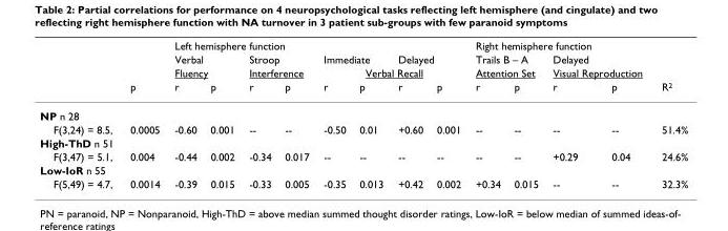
<table><thead><tr><td rowspan="4"></td><td rowspan="4">p</td><td colspan="8">Left hemisphere function</td><td colspan="5">Right hemisphere function</td></tr><tr><td rowspan="2" colspan="2">Verbal Fluency</td><td rowspan="2" colspan="2">Stroop Interference</td><td colspan="2">Immediate</td><td colspan="2">Delayed</td><td rowspan="2" colspan="2">Trails B – A Attention Set</td><td rowspan="2" colspan="2">Delayed Visual Reproduction</td><td rowspan="3">R<sup>2</sup></td></tr><tr><td colspan="4">Verbal Recall</td></tr><tr><td>r</td><td>p</td><td>r</td><td>p</td><td>r</td><td>p</td><td>r</td><td>p</td><td>r</td><td>p</td><td>r</td><td>p</td></tr></thead><tbody><tr><td colspan="15">NP n 28</td></tr><tr><td>F(3,24) = 8.5,</td><td>0.0005</td><td>-0.60</td><td>0.001</td><td>--</td><td>--</td><td>-0.50</td><td>0.01</td><td>+0.60</td><td>0.001</td><td>--</td><td>--</td><td>--</td><td>--</td><td>51.4%</td></tr><tr><td colspan="15">High-ThD n 51</td></tr><tr><td>F(3,47) = 5.1,</td><td>0.004</td><td>-0.44</td><td>0.002</td><td>-0.34</td><td>0.017</td><td>--</td><td>--</td><td>--</td><td>--</td><td>--</td><td>--</td><td>+0.29</td><td>0.04</td><td>24.6%</td></tr><tr><td colspan="15">Low-IoR n 55</td></tr><tr><td>F(5,49) = 4.7,</td><td>0.0014</td><td>-0.39</td><td>0.015</td><td>-0.33</td><td>0.005</td><td>-0.35</td><td>0.013</td><td>+0.42</td><td>0.002</td><td>+0.34</td><td>0.015</td><td>--</td><td>--</td><td>32.3%</td></tr></tbody></table>